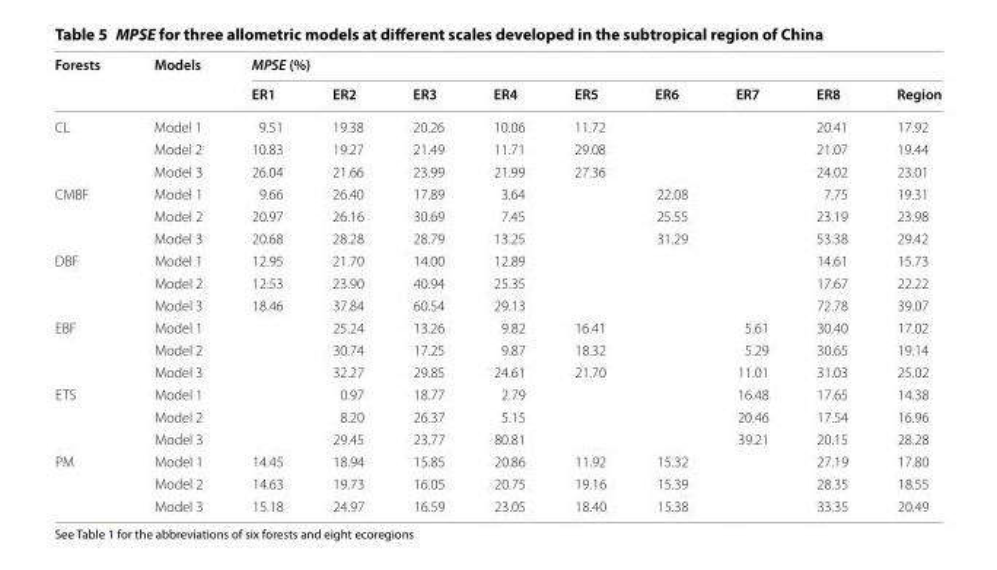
<table><thead><tr><td rowspan="2">Forests</td><td rowspan="2">Models</td><td colspan="9">MPSE (%)</td></tr><tr><td>ER1</td><td>ER2</td><td>ER3</td><td>ER4</td><td>ER5</td><td>ER6</td><td>ER7</td><td>ER8</td><td>Region</td></tr></thead><tbody><tr><td rowspan="3">CL</td><td>Model 1</td><td>9.51</td><td>19.38</td><td>20.26</td><td>10.06</td><td>11.72</td><td></td><td></td><td>20.41</td><td>17.92</td></tr><tr><td>Model 2</td><td>10.83</td><td>19.27</td><td>21.49</td><td>11.71</td><td>29.08</td><td></td><td></td><td>21.07</td><td>19.44</td></tr><tr><td>Model 3</td><td>26.04</td><td>21.66</td><td>23.99</td><td>21.99</td><td>27.36</td><td></td><td></td><td>24.02</td><td>23.01</td></tr><tr><td rowspan="3">CMBF</td><td>Model 1</td><td>9.66</td><td>26.40</td><td>17.89</td><td>3.64</td><td></td><td>22.08</td><td></td><td>7.75</td><td>19.31</td></tr><tr><td>Model 2</td><td>20.97</td><td>26.16</td><td>30.69</td><td>7.45</td><td></td><td>25.55</td><td></td><td>23.19</td><td>23.98</td></tr><tr><td>Model 3</td><td>20.68</td><td>28.28</td><td>28.79</td><td>13.25</td><td></td><td>31.29</td><td></td><td>53.38</td><td>29.42</td></tr><tr><td rowspan="3">DBF</td><td>Model 1</td><td>12.95</td><td>21.70</td><td>14.00</td><td>12.89</td><td></td><td></td><td></td><td>14.61</td><td>15.73</td></tr><tr><td>Model 2</td><td>12.53</td><td>23.90</td><td>40.94</td><td>25.35</td><td></td><td></td><td></td><td>17.67</td><td>22.22</td></tr><tr><td>Model 3</td><td>18.46</td><td>37.84</td><td>60.54</td><td>29.13</td><td></td><td></td><td></td><td>72.78</td><td>39.07</td></tr><tr><td rowspan="3">EBF</td><td>Model 1</td><td></td><td>25.24</td><td>13.26</td><td>9.82</td><td>16.41</td><td></td><td>5.61</td><td>30.40</td><td>17.02</td></tr><tr><td>Model 2</td><td></td><td>30.74</td><td>17.25</td><td>9.87</td><td>18.32</td><td></td><td>5.29</td><td>30.65</td><td>19.14</td></tr><tr><td>Model 3</td><td></td><td>32.27</td><td>29.85</td><td>24.61</td><td>21.70</td><td></td><td>11.01</td><td>31.03</td><td>25.02</td></tr><tr><td rowspan="3">ETS</td><td>Model 1</td><td></td><td>0.97</td><td>18.77</td><td>2.79</td><td></td><td></td><td>16.48</td><td>17.65</td><td>14.38</td></tr><tr><td>Model 2</td><td></td><td>8.20</td><td>26.37</td><td>5.15</td><td></td><td></td><td>20.46</td><td>17.54</td><td>16.96</td></tr><tr><td>Model 3</td><td></td><td>29.45</td><td>23.77</td><td>80.81</td><td></td><td></td><td>39.21</td><td>20.15</td><td>28.28</td></tr><tr><td rowspan="3">PM</td><td>Model 1</td><td>14.45</td><td>18.94</td><td>15.85</td><td>20.86</td><td>11.92</td><td>15.32</td><td></td><td>27.19</td><td>17.80</td></tr><tr><td>Model 2</td><td>14.63</td><td>19.73</td><td>16.05</td><td>20.75</td><td>19.16</td><td>15.39</td><td></td><td>28.35</td><td>18.55</td></tr><tr><td>Model 3</td><td>15.18</td><td>24.97</td><td>16.59</td><td>23.05</td><td>18.40</td><td>15.38</td><td></td><td>33.35</td><td>20.49</td></tr></tbody></table>